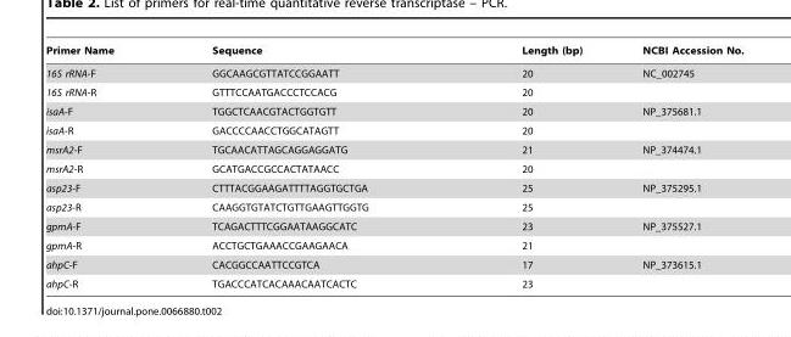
<table><thead><tr><td>Primer Name</td><td>Sequence</td><td>Length (bp)</td><td>NCBI Accession No.</td></tr></thead><tbody><tr><td>16S rRNA-F</td><td>GGCAAGCGTTATCCGGAATT</td><td>20</td><td>NC_002745</td></tr><tr><td>16S rRNA-R</td><td>GTTTCCAATGACCCTCCACG</td><td>20</td><td></td></tr><tr><td>isaA-F</td><td>TGGCTCAACGTACTGGTGTT</td><td>20</td><td>NP_375681.1</td></tr><tr><td>isaA-R</td><td>GACCCCAACCTGGCATAGTT</td><td>20</td><td></td></tr><tr><td>msrA2-F</td><td>TGCAACATTAGCAGGAGGATG</td><td>21</td><td>NP_374474.1</td></tr><tr><td>msrA2-R</td><td>GCATGACCGCCACTATAACC</td><td>20</td><td></td></tr><tr><td>asp23-F</td><td>CTTTACGGAAGATTTTAGGTGCTGA</td><td>25</td><td>NP_375295.1</td></tr><tr><td>asp23-R</td><td>CAAGGTGTATCTGTTGAAGTTGGTG</td><td>25</td><td></td></tr><tr><td>gpmA-F</td><td>TCAGACTTTCGGAATAAGGCATC</td><td>23</td><td>NP_375527.1</td></tr><tr><td>gpmA-R</td><td>ACCTGCTGAAACCGAAGAACA</td><td>21</td><td></td></tr><tr><td>ahpC-F</td><td>CACGGCCAATTCCGTCA</td><td>17</td><td>NP_373615.1</td></tr><tr><td>ahpC-R</td><td>TGACCCATCACAAACAATCACTC</td><td>23</td><td></td></tr></tbody></table>